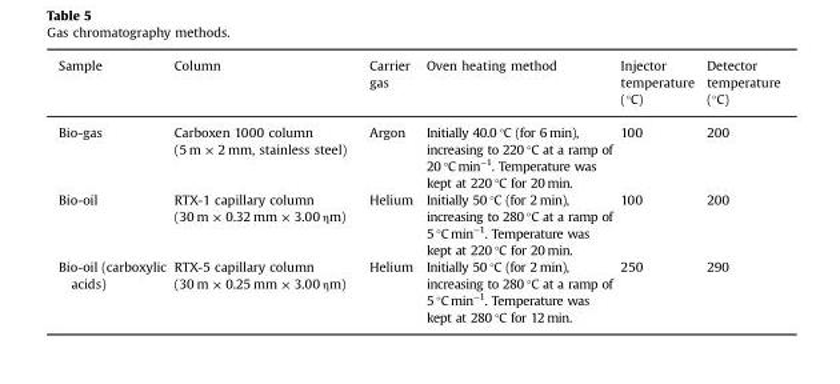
<table><thead><tr><td>Sample</td><td>Column</td><td>Carrier gas</td><td>Oven heating method</td><td>Injector temperature (°C)</td><td>Detector temperature (°C)</td></tr></thead><tbody><tr><td>Bio-gas</td><td>Carboxen 1000 column (5 m × 2 mm, stainless steel)</td><td>Argon</td><td>Initially 40.0 °C (for 6 min), increasing to 220 °C at a ramp of 20 °C min<sup>−1</sup>. Temperature was kept at 220 °C for 20 min.</td><td>100</td><td>200</td></tr><tr><td>Bio-oil</td><td>RTX-1 capillary column (30 m × 0.32 mm × 3.00 ηm)</td><td>Helium</td><td>Initially 50 °C (for 2 min), increasing to 280 °C at a ramp of 5 °C min<sup>−1</sup>. Temperature was kept at 220 °C for 20 min.</td><td>100</td><td>200</td></tr><tr><td>Bio-oil (carboxylic acids)</td><td>RTX-5 capillary column (30 m × 0.25 mm × 3.00 ηm)</td><td>Helium</td><td>Initially 50 °C (for 2 min), increasing to 280 °C at a ramp of 5 °C min<sup>−1</sup>. Temperature was kept at 280 °C for 12 min.</td><td>250</td><td>290</td></tr></tbody></table>